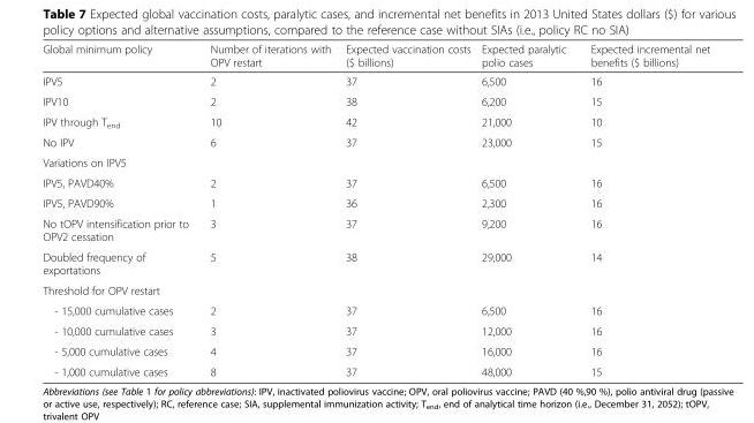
<table><thead><tr><td>Global minimum policy</td><td>Number of iterations with OPV restart</td><td>Expected vaccination costs ($ billions)</td><td>Expected paralytic polio cases</td><td>Expected incremental net benefits ($ billions)</td></tr></thead><tbody><tr><td>IPV5</td><td>2</td><td>37</td><td>6,500</td><td>16</td></tr><tr><td>IPV10</td><td>2</td><td>38</td><td>6,200</td><td>15</td></tr><tr><td>IPV through T<sub>end</sub></td><td>10</td><td>42</td><td>21,000</td><td>10</td></tr><tr><td>No IPV</td><td>6</td><td>37</td><td>23,000</td><td>15</td></tr><tr><td colspan="5">Variations on IPV5</td></tr><tr><td>IPV5, PAVD40%</td><td>2</td><td>37</td><td>6,500</td><td>16</td></tr><tr><td>IPV5, PAVD90%</td><td>1</td><td>36</td><td>2,300</td><td>16</td></tr><tr><td>No tOPV intensification prior to OPV2 cessation</td><td>3</td><td>37</td><td>9,200</td><td>16</td></tr><tr><td>Doubled frequency of exportations</td><td>5</td><td>38</td><td>29,000</td><td>14</td></tr><tr><td colspan="5">Threshold for OPV restart</td></tr><tr><td>- 15,000 cumulative cases</td><td>2</td><td>37</td><td>6,500</td><td>16</td></tr><tr><td>- 10,000 cumulative cases</td><td>3</td><td>37</td><td>12,000</td><td>16</td></tr><tr><td>- 5,000 cumulative cases</td><td>4</td><td>37</td><td>16,000</td><td>16</td></tr><tr><td>- 1,000 cumulative cases</td><td>8</td><td>37</td><td>48,000</td><td>15</td></tr></tbody></table>